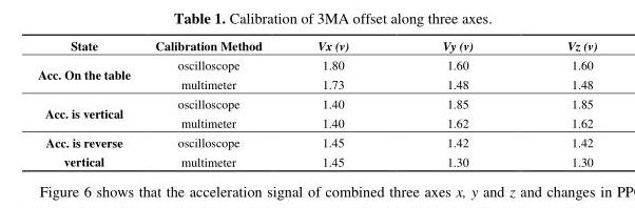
<table><thead><tr><td>State</td><td>Calibration Method</td><td>Vx (v)</td><td>Vy (v)</td><td>Vz (v)</td></tr></thead><tbody><tr><td rowspan="2">Acc. On the table</td><td>oscilloscope</td><td>1.80</td><td>1.60</td><td>1.60</td></tr><tr><td>multimeter</td><td>1.73</td><td>1.48</td><td>1.48</td></tr><tr><td rowspan="2">Acc. is vertical</td><td>oscilloscope</td><td>1.40</td><td>1.85</td><td>1.85</td></tr><tr><td>multimeter</td><td>1.40</td><td>1.62</td><td>1.62</td></tr><tr><td rowspan="2">Acc. is reverse vertical</td><td>oscilloscope</td><td>1.45</td><td>1.42</td><td>1.42</td></tr><tr><td>multimeter</td><td>1.45</td><td>1.30</td><td>1.30</td></tr></tbody></table>